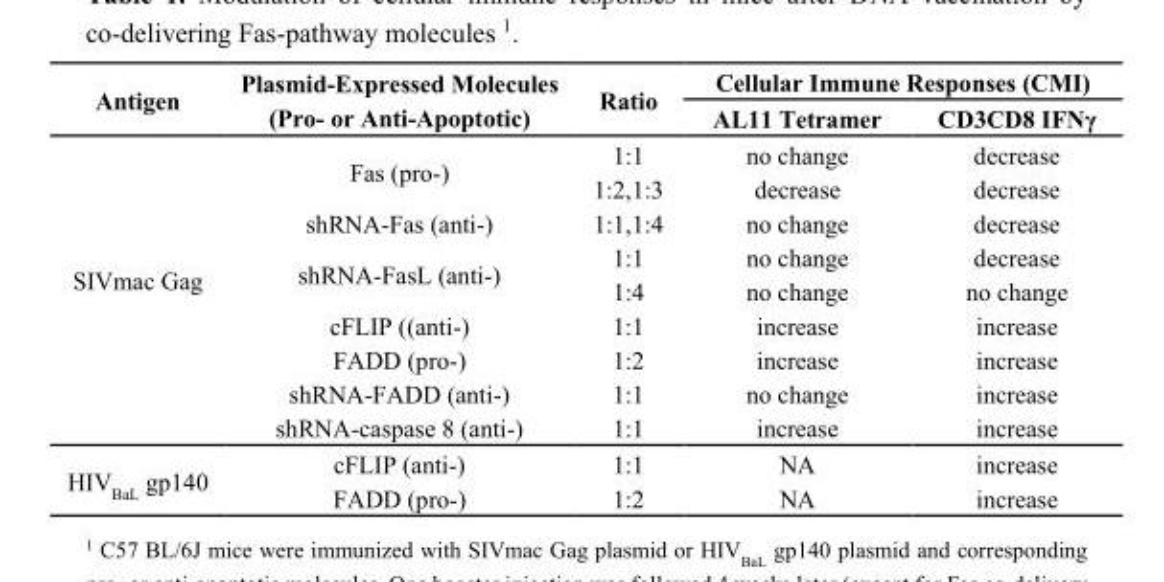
<table><thead><tr><td rowspan="2">Antigen</td><td rowspan="2">Plasmid-Expressed Molecules (Pro- or Anti-Apoptotic)</td><td rowspan="2">Ratio</td><td colspan="2">Cellular Immune Responses (CMI)</td></tr><tr><td>AL11 Tetramer</td><td>CD3CD8 IFNγ</td></tr></thead><tbody><tr><td rowspan="9">SIVmac Gag</td><td rowspan="2">Fas (pro-)</td><td>1:1</td><td>no change</td><td>decrease</td></tr><tr><td>1:2,1:3</td><td>decrease</td><td>decrease</td></tr><tr><td>shRNA-Fas (anti-)</td><td>1:1,1:4</td><td>no change</td><td>decrease</td></tr><tr><td rowspan="2">shRNA-FasL (anti-)</td><td>1:1</td><td>no change</td><td>decrease</td></tr><tr><td>1:4</td><td>no change</td><td>no change</td></tr><tr><td>cFLIP ((anti-)</td><td>1:1</td><td>increase</td><td>increase</td></tr><tr><td>FADD (pro-)</td><td>1:2</td><td>increase</td><td>increase</td></tr><tr><td>shRNA-FADD (anti-)</td><td>1:1</td><td>no change</td><td>increase</td></tr><tr><td>shRNA-caspase 8 (anti-)</td><td>1:1</td><td>increase</td><td>increase</td></tr><tr><td rowspan="2">HIV<sub>BaL</sub> gp140</td><td>cFLIP (anti-)</td><td>1:1</td><td>NA</td><td>increase</td></tr><tr><td>FADD (pro-)</td><td>1:2</td><td>NA</td><td>increase</td></tr></tbody></table>